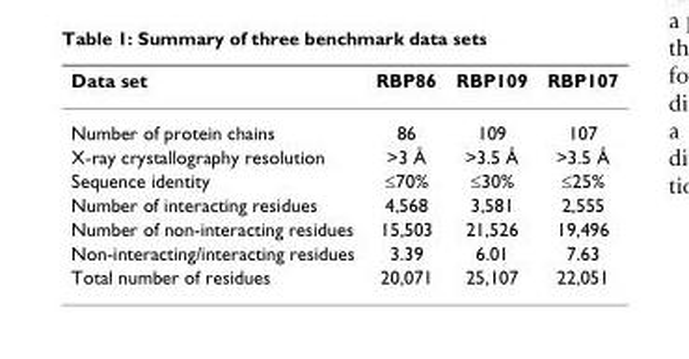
<table><thead><tr><td>Data set</td><td>RBP86</td><td>RBP109</td><td>RBP107</td></tr></thead><tbody><tr><td>Number of protein chains</td><td>86</td><td>109</td><td>107</td></tr><tr><td>X-ray crystallography resolution</td><td>&gt;3 Å</td><td>&gt;3.5 Å</td><td>&gt;3.5 Å</td></tr><tr><td>Sequence identity</td><td>≤70%</td><td>≤30%</td><td>≤25%</td></tr><tr><td>Number of interacting residues</td><td>4,568</td><td>3,581</td><td>2,555</td></tr><tr><td>Number of non-interacting residues</td><td>15,503</td><td>21,526</td><td>19,496</td></tr><tr><td>Non-interacting/interacting residues</td><td>3.39</td><td>6.01</td><td>7.63</td></tr><tr><td>Total number of residues</td><td>20,071</td><td>25,107</td><td>22,051</td></tr></tbody></table>